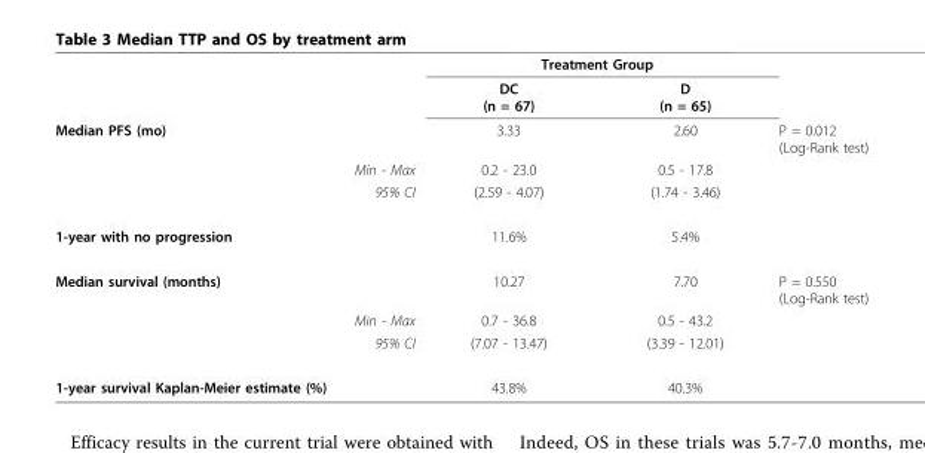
<table><thead><tr><td rowspan="2"></td><td colspan="2">Treatment Group</td><td rowspan="2"></td></tr><tr><td>DC (n = 67)</td><td>D (n = 65)</td></tr></thead><tbody><tr><td>Median PFS (mo)</td><td>3.33</td><td>2.60</td><td>P = 0.012 (Log-Rank test)</td></tr><tr><td>Min - Max</td><td>0.2 - 23.0</td><td>0.5 - 17.8</td><td></td></tr><tr><td>95% CI</td><td>(2.59 - 4.07)</td><td>(1.74 - 3.46)</td><td></td></tr><tr><td>1-year with no progression</td><td>11.6%</td><td>5.4%</td><td></td></tr><tr><td>Median survival (months)</td><td>10.27</td><td>7.70</td><td>P = 0.550 (Log-Rank test)</td></tr><tr><td>Min - Max</td><td>0.7 - 36.8</td><td>0.5 - 43.2</td><td></td></tr><tr><td>95% CI</td><td>(7.07 - 13.47)</td><td>(3.39 - 12.01)</td><td></td></tr><tr><td>1-year survival Kaplan-Meier estimate (%)</td><td>43.8%</td><td>40.3%</td><td></td></tr></tbody></table>